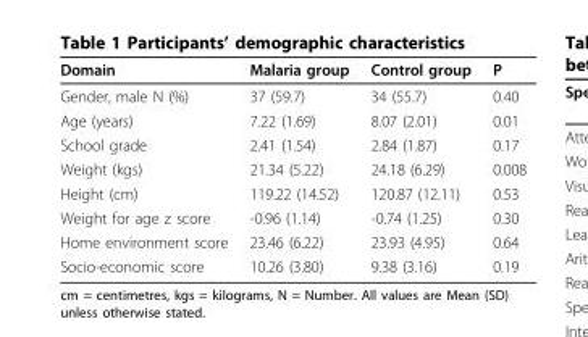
<table><thead><tr><td>Domain</td><td>Malaria group</td><td>Control group</td><td>P</td></tr></thead><tbody><tr><td>Gender, male N (%)</td><td>37 (59.7)</td><td>34 (55.7)</td><td>0.40</td></tr><tr><td>Age (years)</td><td>7.22 (1.69)</td><td>8.07 (2.01)</td><td>0.01</td></tr><tr><td>School grade</td><td>2.41 (1.54)</td><td>2.84 (1.87)</td><td>0.17</td></tr><tr><td>Weight (kgs)</td><td>21.34 (5.22)</td><td>24.18 (6.29)</td><td>0.008</td></tr><tr><td>Height (cm)</td><td>119.22 (14.52)</td><td>120.87 (12.11)</td><td>0.53</td></tr><tr><td>Weight for age z score</td><td>-0.96 (1.14)</td><td>-0.74 (1.25)</td><td>0.30</td></tr><tr><td>Home environment score</td><td>23.46 (6.22)</td><td>23.93 (4.95)</td><td>0.64</td></tr><tr><td>Socio-economic score</td><td>10.26 (3.80)</td><td>9.38 (3.16)</td><td>0.19</td></tr></tbody></table>